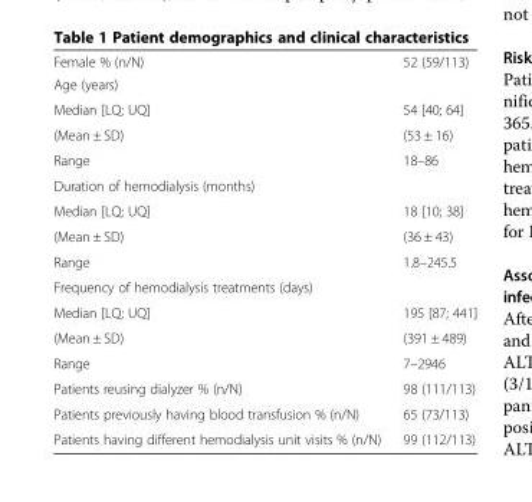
<table><thead><tr><td>Female % (n/N)</td><td>52 (59/113)</td></tr></thead><tbody><tr><td colspan="2">Age (years)</td></tr><tr><td>Median [LQ; UQ]</td><td>54 [40; 64]</td></tr><tr><td>(Mean ± SD)</td><td>(53 ± 16)</td></tr><tr><td>Range</td><td>18–86</td></tr><tr><td colspan="2">Duration of hemodialysis (months)</td></tr><tr><td>Median [LQ; UQ]</td><td>18 [10; 38]</td></tr><tr><td>(Mean ± SD)</td><td>(36 ± 43)</td></tr><tr><td>Range</td><td>1.8–245.5</td></tr><tr><td colspan="2">Frequency of hemodialysis treatments (days)</td></tr><tr><td>Median [LQ; UQ]</td><td>195 [87; 441]</td></tr><tr><td>(Mean ± SD)</td><td>(391 ± 489)</td></tr><tr><td>Range</td><td>7–2946</td></tr><tr><td>Patients reusing dialyzer % (n/N)</td><td>98 (111/113)</td></tr><tr><td>Patients previously having blood transfusion % (n/N)</td><td>65 (73/113)</td></tr><tr><td>Patients having different hemodialysis unit visits % (n/N)</td><td>99 (112/113)</td></tr></tbody></table>